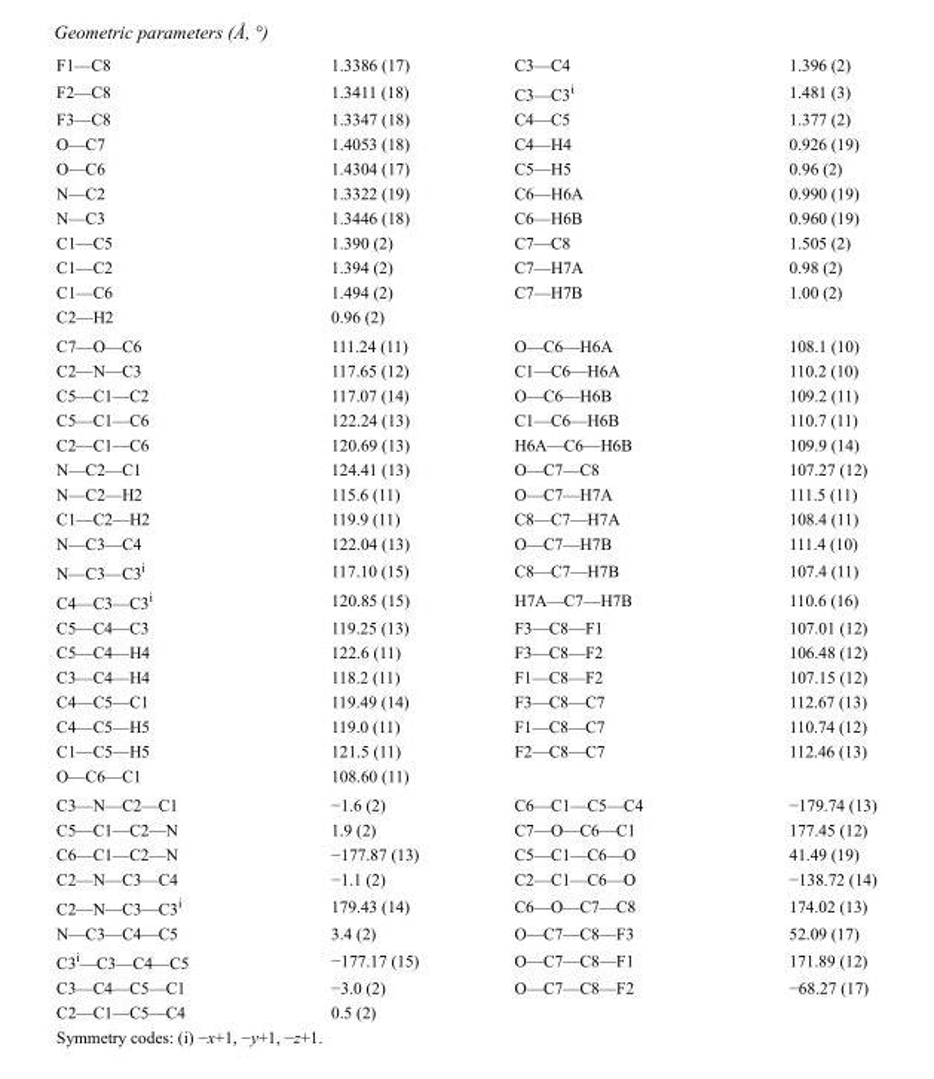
<table><tbody><tr><td>F1—C8</td><td>1.3386 (17)</td><td>C3—C4</td><td>1.396 (2)</td></tr><tr><td>F2—C8</td><td>1.3411 (18)</td><td>C3—C3<sup>i</sup></td><td>1.481 (3)</td></tr><tr><td>F3—C8</td><td>1.3347 (18)</td><td>C4—C5</td><td>1.377 (2)</td></tr><tr><td>O—C7</td><td>1.4053 (18)</td><td>C4—H4</td><td>0.926 (19)</td></tr><tr><td>O—C6</td><td>1.4304 (17)</td><td>C5—H5</td><td>0.96 (2)</td></tr><tr><td>N—C2</td><td>1.3322 (19)</td><td>C6—H6A</td><td>0.990 (19)</td></tr><tr><td>N—C3</td><td>1.3446 (18)</td><td>C6—H6B</td><td>0.960 (19)</td></tr><tr><td>C1—C5</td><td>1.390 (2)</td><td>C7—C8</td><td>1.505 (2)</td></tr><tr><td>C1—C2</td><td>1.394 (2)</td><td>C7—H7A</td><td>0.98 (2)</td></tr><tr><td>C1—C6</td><td>1.494 (2)</td><td>C7—H7B</td><td>1.00 (2)</td></tr><tr><td>C2—H2</td><td>0.96 (2)</td><td></td><td></td></tr><tr><td>C7—O—C6</td><td>111.24 (11)</td><td>O—C6—H6A</td><td>108.1 (10)</td></tr><tr><td>C2—N—C3</td><td>117.65 (12)</td><td>C1—C6—H6A</td><td>110.2 (10)</td></tr><tr><td>C5—C1—C2</td><td>117.07 (14)</td><td>O—C6—H6B</td><td>109.2 (11)</td></tr><tr><td>C5—C1—C6</td><td>122.24 (13)</td><td>C1—C6—H6B</td><td>110.7 (11)</td></tr><tr><td>C2—C1—C6</td><td>120.69 (13)</td><td>H6A—C6—H6B</td><td>109.9 (14)</td></tr><tr><td>N—C2—C1</td><td>124.41 (13)</td><td>O—C7—C8</td><td>107.27 (12)</td></tr><tr><td>N—C2—H2</td><td>115.6 (11)</td><td>O—C7—H7A</td><td>111.5 (11)</td></tr><tr><td>C1—C2—H2</td><td>119.9 (11)</td><td>C8—C7—H7A</td><td>108.4 (11)</td></tr><tr><td>N—C3—C4</td><td>122.04 (13)</td><td>O—C7—H7B</td><td>111.4 (10)</td></tr><tr><td>N—C3—C3<sup>i</sup></td><td>117.10 (15)</td><td>C8—C7—H7B</td><td>107.4 (11)</td></tr><tr><td>C4—C3—C3<sup>i</sup></td><td>120.85 (15)</td><td>H7A—C7—H7B</td><td>110.6 (16)</td></tr><tr><td>C5—C4—C3</td><td>119.25 (13)</td><td>F3—C8—F1</td><td>107.01 (12)</td></tr><tr><td>C5—C4—H4</td><td>122.6 (11)</td><td>F3—C8—F2</td><td>106.48 (12)</td></tr><tr><td>C3—C4—H4</td><td>118.2 (11)</td><td>F1—C8—F2</td><td>107.15 (12)</td></tr><tr><td>C4—C5—C1</td><td>119.49 (14)</td><td>F3—C8—C7</td><td>112.67 (13)</td></tr><tr><td>C4—C5—H5</td><td>119.0 (11)</td><td>F1—C8—C7</td><td>110.74 (12)</td></tr><tr><td>C1—C5—H5</td><td>121.5 (11)</td><td>F2—C8—C7</td><td>112.46 (13)</td></tr><tr><td>O—C6—C1</td><td>108.60 (11)</td><td></td><td></td></tr><tr><td>C3—N—C2—C1</td><td>−1.6 (2)</td><td>C6—C1—C5—C4</td><td>−179.74 (13)</td></tr><tr><td>C5—C1—C2—N</td><td>1.9 (2)</td><td>C7—O—C6—C1</td><td>177.45 (12)</td></tr><tr><td>C6—C1—C2—N</td><td>−177.87 (13)</td><td>C5—C1—C6—O</td><td>41.49 (19)</td></tr><tr><td>C2—N—C3—C4</td><td>−1.1 (2)</td><td>C2—C1—C6—O</td><td>−138.72 (14)</td></tr><tr><td>C2—N—C3—C3<sup>i</sup></td><td>179.43 (14)</td><td>C6—O—C7—C8</td><td>174.02 (13)</td></tr><tr><td>N—C3—C4—C5</td><td>3.4 (2)</td><td>O—C7—C8—F3</td><td>52.09 (17)</td></tr><tr><td>C3<sup>i</sup>—C3—C4—C5</td><td>−177.17 (15)</td><td>O—C7—C8—F1</td><td>171.89 (12)</td></tr><tr><td>C3—C4—C5—C1</td><td>−3.0 (2)</td><td>O—C7—C8—F2</td><td>−68.27 (17)</td></tr><tr><td>C2—C1—C5—C4</td><td>0.5 (2)</td><td></td><td></td></tr></tbody></table>